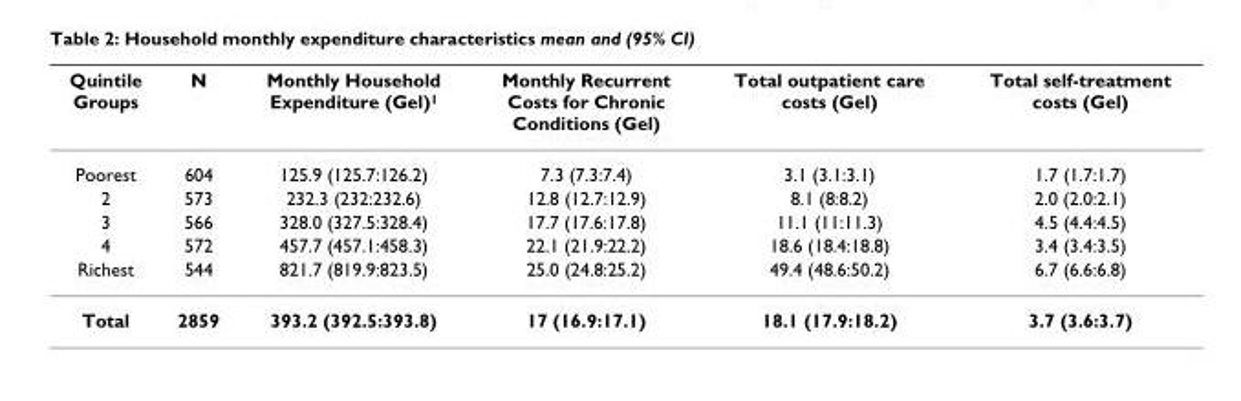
<table><thead><tr><td>Quintile Groups</td><td>N</td><td>Monthly Household Expenditure (Gel)<sup>1</sup></td><td>Monthly Recurrent Costs for Chronic Conditions (Gel)</td><td>Total outpatient care costs (Gel)</td><td>Total self-treatment costs (Gel)</td></tr></thead><tbody><tr><td>Poorest</td><td>604</td><td>125.9 (125.7:126.2)</td><td>7.3 (7.3:7.4)</td><td>3.1 (3.1:3.1)</td><td>1.7 (1.7:1.7)</td></tr><tr><td>2</td><td>573</td><td>232.3 (232:232.6)</td><td>12.8 (12.7:12.9)</td><td>8.1 (8:8.2)</td><td>2.0 (2.0:2.1)</td></tr><tr><td>3</td><td>566</td><td>328.0 (327.5:328.4)</td><td>17.7 (17.6:17.8)</td><td>11.1 (11:11.3)</td><td>4.5 (4.4:4.5)</td></tr><tr><td>4</td><td>572</td><td>457.7 (457.1:458.3)</td><td>22.1 (21.9:22.2)</td><td>18.6 (18.4:18.8)</td><td>3.4 (3.4:3.5)</td></tr><tr><td>Richest</td><td>544</td><td>821.7 (819.9:823.5)</td><td>25.0 (24.8:25.2)</td><td>49.4 (48.6:50.2)</td><td>6.7 (6.6:6.8)</td></tr><tr><td>Total</td><td>2859</td><td>393.2 (392.5:393.8)</td><td>17 (16.9:17.1)</td><td>18.1 (17.9:18.2)</td><td>3.7 (3.6:3.7)</td></tr></tbody></table>